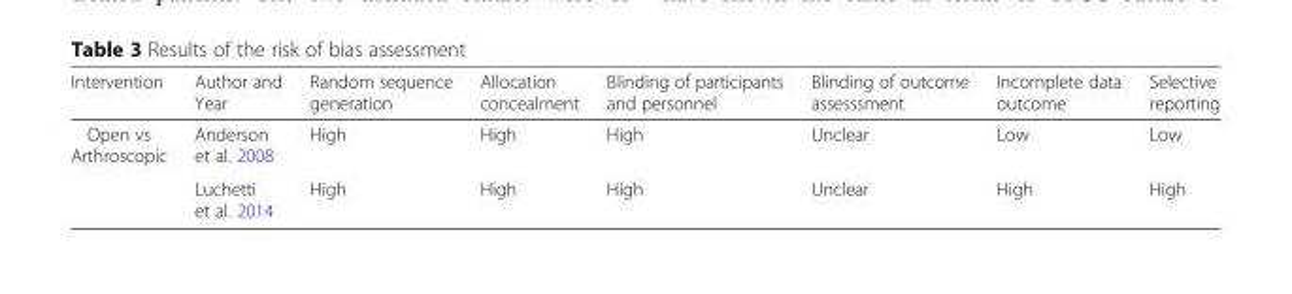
<table><thead><tr><td>Intervention</td><td>Author and Year</td><td>Random sequence generation</td><td>Allocation concealment</td><td>Blinding of participants and personnel</td><td>Blinding of outcome assesssment</td><td>Incomplete data outcome</td><td>Selective reporting</td></tr></thead><tbody><tr><td rowspan="2">Open vs Arthroscopic</td><td>Anderson et al. 2008</td><td>High</td><td>High</td><td>High</td><td>Unclear</td><td>Low</td><td>Low</td></tr><tr><td>Luchetti et al. 2014</td><td>High</td><td>High</td><td>High</td><td>Unclear</td><td>High</td><td>High</td></tr></tbody></table>